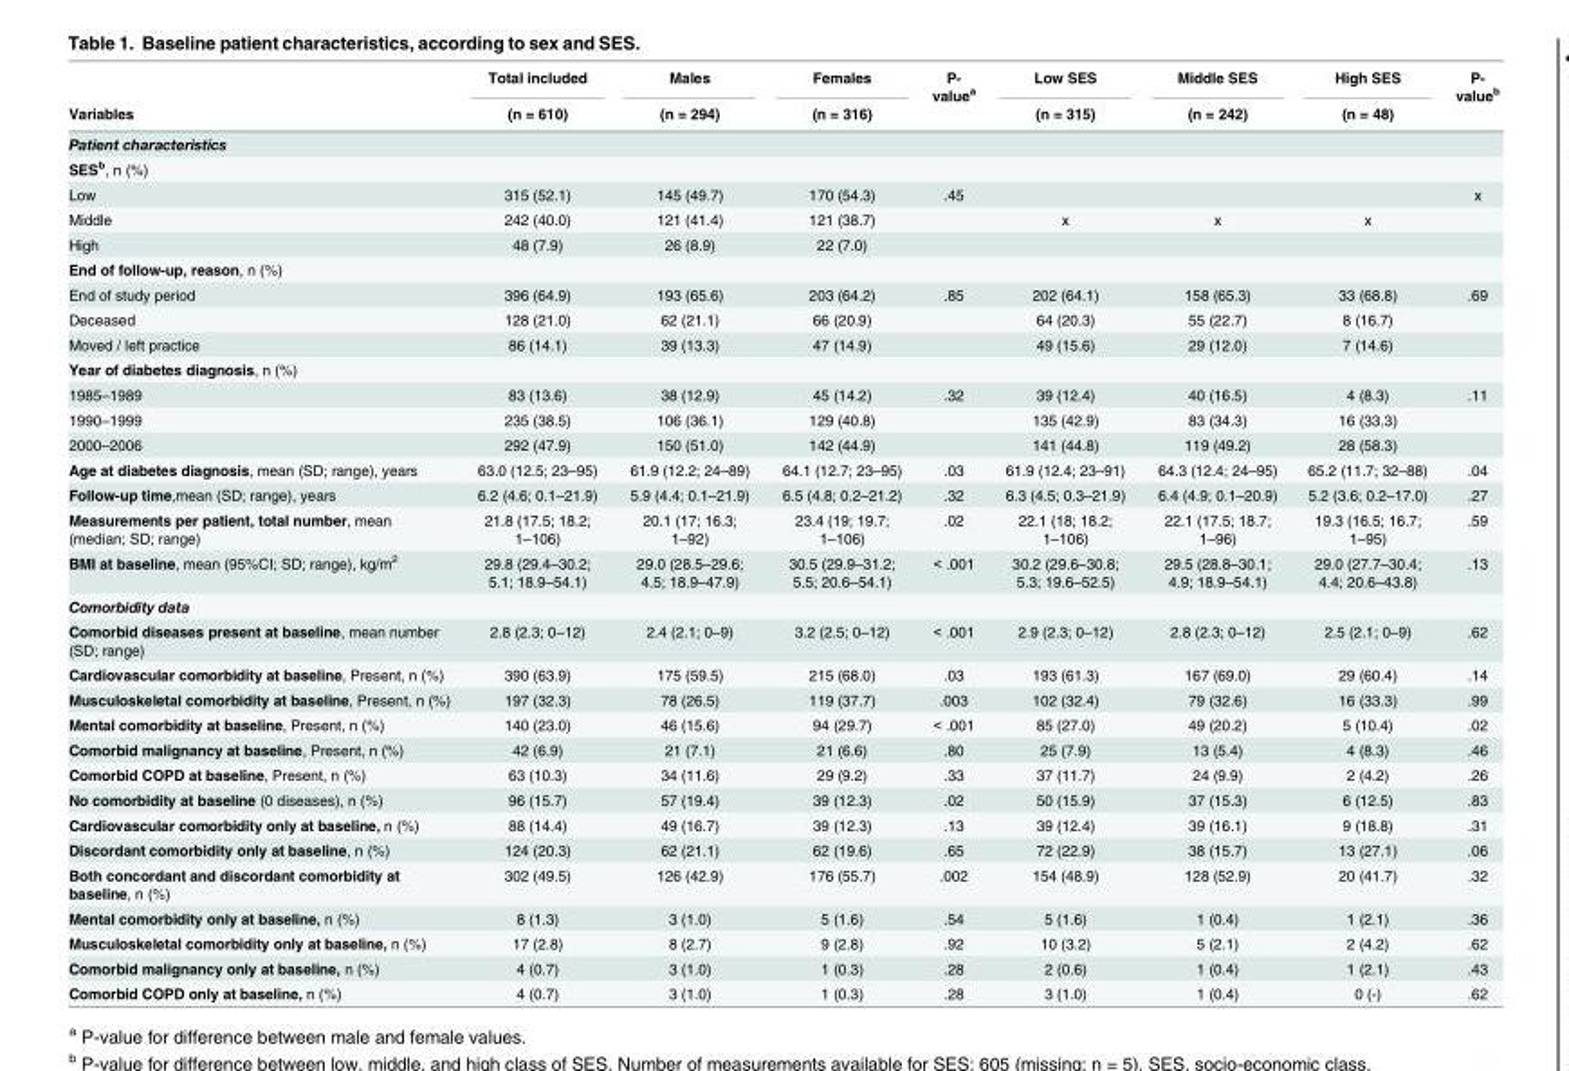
<table><thead><tr><td rowspan="2">Variables</td><td rowspan="2">Total included (n = 610)</td><td rowspan="2">Males (n = 294)</td><td rowspan="2">Females (n = 316)</td><td rowspan="2">P- value<sup>a</sup></td><td rowspan="2">Low SES (n = 315)</td><td rowspan="2">Middle SES (n = 242)</td><td rowspan="2">High SES (n = 48)</td><td rowspan="2">P- value<sup>b</sup></td></tr><tr></tr></thead><tbody><tr><td colspan="9">Patient characteristics</td></tr><tr><td colspan="9">SES<sup>b</sup>, n (%)</td></tr><tr><td>Low</td><td>315 (52.1)</td><td>145 (49.7)</td><td>170 (54.3)</td><td>.45</td><td></td><td></td><td></td><td>x</td></tr><tr><td>Middle</td><td>242 (40.0)</td><td>121 (41.4)</td><td>121 (38.7)</td><td></td><td>x</td><td>x</td><td>x</td><td></td></tr><tr><td>High</td><td>48 (7.9)</td><td>26 (8.9)</td><td>22 (7.0)</td><td></td><td></td><td></td><td></td><td></td></tr><tr><td colspan="9">End of follow-up, reason, n (%)</td></tr><tr><td>End of study period</td><td>396 (64.9)</td><td>193 (65.6)</td><td>203 (64.2)</td><td>.85</td><td>202 (64.1)</td><td>158 (65.3)</td><td>33 (68.8)</td><td>.69</td></tr><tr><td>Deceased</td><td>128 (21.0)</td><td>62 (21.1)</td><td>66 (20.9)</td><td></td><td>64 (20.3)</td><td>55 (22.7)</td><td>8 (16.7)</td><td></td></tr><tr><td>Moved / left practice</td><td>86 (14.1)</td><td>39 (13.3)</td><td>47 (14.9)</td><td></td><td>49 (15.6)</td><td>29 (12.0)</td><td>7 (14.6)</td><td></td></tr><tr><td colspan="9">Year of diabetes diagnosis, n (%)</td></tr><tr><td>1985–1989</td><td>83 (13.6)</td><td>38 (12.9)</td><td>45 (14.2)</td><td>.32</td><td>39 (12.4)</td><td>40 (16.5)</td><td>4 (8.3)</td><td>.11</td></tr><tr><td>1990–1999</td><td>235 (38.5)</td><td>106 (36.1)</td><td>129 (40.8)</td><td></td><td>135 (42.9)</td><td>83 (34.3)</td><td>16 (33.3)</td><td></td></tr><tr><td>2000–2006</td><td>292 (47.9)</td><td>150 (51.0)</td><td>142 (44.9)</td><td></td><td>141 (44.8)</td><td>119 (49.2)</td><td>28 (58.3)</td><td></td></tr><tr><td>Age at diabetes diagnosis, mean (SD; range), years</td><td>63.0 (12.5; 23–95)</td><td>61.9 (12.2; 24–89)</td><td>64.1 (12.7; 23–95)</td><td>.03</td><td>61.9 (12.4; 23–91)</td><td>64.3 (12.4; 24–95)</td><td>65.2 (11.7; 32–88)</td><td>.04</td></tr><tr><td>Follow-up time,mean (SD; range), years</td><td>6.2 (4.6; 0.1–21.9)</td><td>5.9 (4.4; 0.1–21.9)</td><td>6.5 (4.8; 0.2–21.2)</td><td>.32</td><td>6.3 (4.5; 0.3–21.9)</td><td>6.4 (4.9; 0.1–20.9)</td><td>5.2 (3.6; 0.2–17.0)</td><td>.27</td></tr><tr><td>Measurements per patient, total number, mean (median; SD; range)</td><td>21.8 (17.5; 18.2; 1–106)</td><td>20.1 (17; 16.3; 1–92)</td><td>23.4 (19; 19.7; 1–106)</td><td>.02</td><td>22.1 (18; 18.2; 1–106)</td><td>22.1 (17.5; 18.7; 1–96)</td><td>19.3 (16.5; 16.7; 1–95)</td><td>.59</td></tr><tr><td>BMI at baseline, mean (95%CI; SD; range), kg/m<sup>2</sup></td><td>29.8 (29.4–30.2; 5.1; 18.9–54.1)</td><td>29.0 (28.5–29.6; 4.5; 18.9–47.9)</td><td>30.5 (29.9–31.2; 5.5; 20.6–54.1)</td><td>&lt; .001</td><td>30.2 (29.6–30.8; 5.3; 19.6–52.5)</td><td>29.5 (28.8–30.1; 4.9; 18.9–54.1)</td><td>29.0 (27.7–30.4; 4.4; 20.6–43.8)</td><td>.13</td></tr><tr><td colspan="9">Comorbidity data</td></tr><tr><td>Comorbid diseases present at baseline, mean number (SD; range)</td><td>2.8 (2.3; 0–12)</td><td>2.4 (2.1; 0–9)</td><td>3.2 (2.5; 0–12)</td><td>&lt; .001</td><td>2.9 (2.3; 0–12)</td><td>2.8 (2.3; 0–12)</td><td>2.5 (2.1; 0–9)</td><td>.62</td></tr><tr><td>Cardiovascular comorbidity at baseline, Present, n (%)</td><td>390 (63.9)</td><td>175 (59.5)</td><td>215 (68.0)</td><td>.03</td><td>193 (61.3)</td><td>167 (69.0)</td><td>29 (60.4)</td><td>.14</td></tr><tr><td>Musculoskeletal comorbidity at baseline, Present, n (%)</td><td>197 (32.3)</td><td>78 (26.5)</td><td>119 (37.7)</td><td>.003</td><td>102 (32.4)</td><td>79 (32.6)</td><td>16 (33.3)</td><td>.99</td></tr><tr><td>Mental comorbidity at baseline, Present, n (%)</td><td>140 (23.0)</td><td>46 (15.6)</td><td>94 (29.7)</td><td>&lt; .001</td><td>85 (27.0)</td><td>49 (20.2)</td><td>5 (10.4)</td><td>.02</td></tr><tr><td>Comorbid malignancy at baseline, Present, n (%)</td><td>42 (6.9)</td><td>21 (7.1)</td><td>21 (6.6)</td><td>.80</td><td>25 (7.9)</td><td>13 (5.4)</td><td>4 (8.3)</td><td>.46</td></tr><tr><td>Comorbid COPD at baseline, Present, n (%)</td><td>63 (10.3)</td><td>34 (11.6)</td><td>29 (9.2)</td><td>.33</td><td>37 (11.7)</td><td>24 (9.9)</td><td>2 (4.2)</td><td>.26</td></tr><tr><td>No comorbidity at baseline (0 diseases), n (%)</td><td>96 (15.7)</td><td>57 (19.4)</td><td>39 (12.3)</td><td>.02</td><td>50 (15.9)</td><td>37 (15.3)</td><td>6 (12.5)</td><td>.83</td></tr><tr><td>Cardiovascular comorbidity only at baseline, n (%)</td><td>88 (14.4)</td><td>49 (16.7)</td><td>39 (12.3)</td><td>.13</td><td>39 (12.4)</td><td>39 (16.1)</td><td>9 (18.8)</td><td>.31</td></tr><tr><td>Discordant comorbidity only at baseline, n (%)</td><td>124 (20.3)</td><td>62 (21.1)</td><td>62 (19.6)</td><td>.65</td><td>72 (22.9)</td><td>38 (15.7)</td><td>13 (27.1)</td><td>.06</td></tr><tr><td>Both concordant and discordant comorbidity at baseline, n (%)</td><td>302 (49.5)</td><td>126 (42.9)</td><td>176 (55.7)</td><td>.002</td><td>154 (48.9)</td><td>128 (52.9)</td><td>20 (41.7)</td><td>.32</td></tr><tr><td>Mental comorbidity only at baseline, n (%)</td><td>8 (1.3)</td><td>3 (1.0)</td><td>5 (1.6)</td><td>.54</td><td>5 (1.6)</td><td>1 (0.4)</td><td>1 (2.1)</td><td>.36</td></tr><tr><td>Musculoskeletal comorbidity only at baseline, n (%)</td><td>17 (2.8)</td><td>8 (2.7)</td><td>9 (2.8)</td><td>.92</td><td>10 (3.2)</td><td>5 (2.1)</td><td>2 (4.2)</td><td>.62</td></tr><tr><td>Comorbid malignancy only at baseline, n (%)</td><td>4 (0.7)</td><td>3 (1.0)</td><td>1 (0.3)</td><td>.28</td><td>2 (0.6)</td><td>1 (0.4)</td><td>1 (2.1)</td><td>.43</td></tr><tr><td>Comorbid COPD only at baseline, n (%)</td><td>4 (0.7)</td><td>3 (1.0)</td><td>1 (0.3)</td><td>.28</td><td>3 (1.0)</td><td>1 (0.4)</td><td>0 (-)</td><td>.62</td></tr></tbody></table>